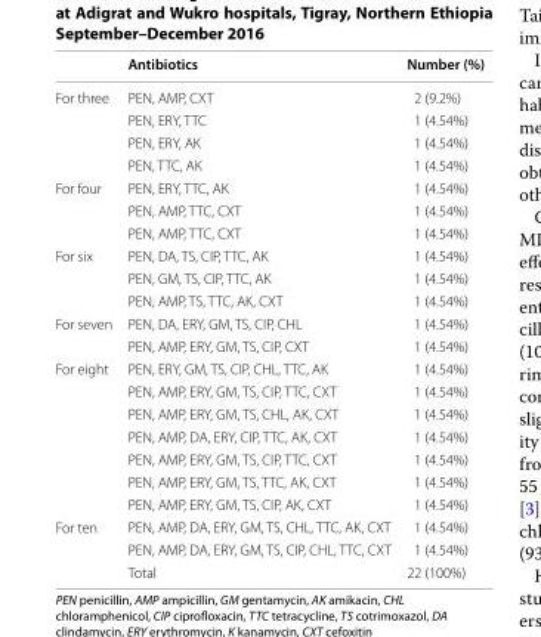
<table><thead><tr><td></td><td>Antibiotics</td><td>Number (%)</td></tr></thead><tbody><tr><td rowspan="4">For three</td><td>PEN, AMP, CXT</td><td>2 (9.2%)</td></tr><tr><td>PEN, ERY, TTC</td><td>1 (4.54%)</td></tr><tr><td>PEN, ERY, AK</td><td>1 (4.54%)</td></tr><tr><td>PEN, TTC, AK</td><td>1 (4.54%)</td></tr><tr><td rowspan="3">For four</td><td>PEN, ERY, TTC, AK</td><td>1 (4.54%)</td></tr><tr><td>PEN, AMP, TTC, CXT</td><td>1 (4.54%)</td></tr><tr><td>PEN, AMP, TTC, CXT</td><td>1 (4.54%)</td></tr><tr><td rowspan="3">For six</td><td>PEN, DA, TS, CIP, TTC, AK</td><td>1 (4.54%)</td></tr><tr><td>PEN, GM, TS, CIP, TTC, AK</td><td>1 (4.54%)</td></tr><tr><td>PEN, AMP, TS, TTC, AK, CXT</td><td>1 (4.54%)</td></tr><tr><td rowspan="2">For seven</td><td>PEN, DA, ERY, GM, TS, CIP, CHL</td><td>1 (4.54%)</td></tr><tr><td>PEN, AMP, ERY, GM, TS, CIP, CXT</td><td>1 (4.54%)</td></tr><tr><td rowspan="7">For eight</td><td>PEN, ERY, GM, TS, CIP, CHL, TTC, AK</td><td>1 (4.54%)</td></tr><tr><td>PEN, AMP, ERY, GM, TS, CIP, TTC, CXT</td><td>1 (4.54%)</td></tr><tr><td>PEN, AMP, ERY, GM, TS, CHL, AK, CXT</td><td>1 (4.54%)</td></tr><tr><td>PEN, AMP, DA, ERY, CIP, TTC, AK, CXT</td><td>1 (4.54%)</td></tr><tr><td>PEN, AMP, ERY, GM, TS, CIP, TTC, CXT</td><td>1 (4.54%)</td></tr><tr><td>PEN, AMP, ERY, GM, TS, TTC, AK, CXT</td><td>1 (4.54%)</td></tr><tr><td>PEN, AMP, ERY, GM, TS, CIP, AK, CXT</td><td>1 (4.54%)</td></tr><tr><td rowspan="3">For ten</td><td>PEN, AMP, DA, ERY, GM, TS, CHL, TTC, AK, CXT</td><td>1 (4.54%)</td></tr><tr><td>PEN, AMP, DA, ERY, GM, TS, CIP, CHL, TTC, CXT</td><td>1 (4.54%)</td></tr><tr><td>Total</td><td>22 (100%)</td></tr></tbody></table>